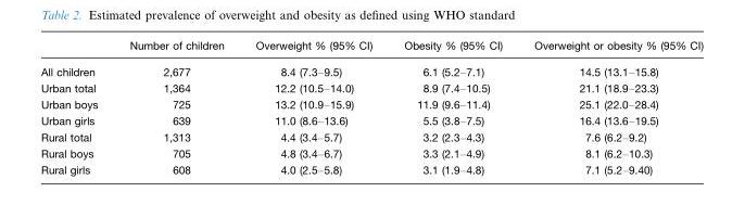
<table><thead><tr><td></td><td>Number of children</td><td>Overweight % (95% CI)</td><td>Obesity % (95% CI)</td><td>Overweight or obesity % (95% CI)</td></tr></thead><tbody><tr><td>All children</td><td>2,677</td><td>8.4 (7.3–9.5)</td><td>6.1 (5.2–7.1)</td><td>14.5 (13.1–15.8)</td></tr><tr><td>Urban total</td><td>1,364</td><td>12.2 (10.5–14.0)</td><td>8.9 (7.4–10.5)</td><td>21.1 (18.9–23.3)</td></tr><tr><td>Urban boys</td><td>725</td><td>13.2 (10.9–15.9)</td><td>11.9 (9.6–11.4)</td><td>25.1 (22.0–28.4)</td></tr><tr><td>Urban girls</td><td>639</td><td>11.0 (8.6–13.6)</td><td>5.5 (3.8–7.5)</td><td>16.4 (13.6–19.5)</td></tr><tr><td>Rural total</td><td>1,313</td><td>4.4 (3.4–5.7)</td><td>3.2 (2.3–4.3)</td><td>7.6 (6.2–9.2)</td></tr><tr><td>Rural boys</td><td>705</td><td>4.8 (3.4–6.7)</td><td>3.3 (2.1–4.9)</td><td>8.1 (6.2–10.3)</td></tr><tr><td>Rural girls</td><td>608</td><td>4.0 (2.5–5.8)</td><td>3.1 (1.9–4.8)</td><td>7.1 (5.2–9.40)</td></tr></tbody></table>